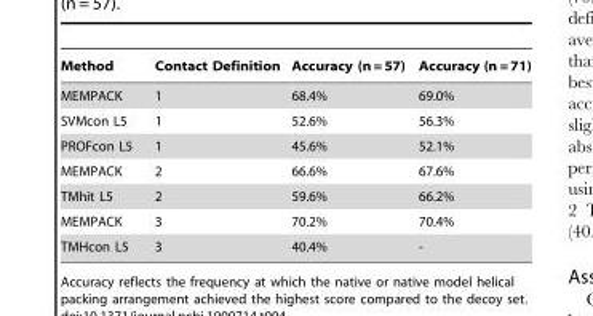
<table><thead><tr><td>Method</td><td>Contact Definition</td><td>Accuracy (n = 57)</td><td>Accuracy (n = 71)</td></tr></thead><tbody><tr><td>MEMPACK</td><td>1</td><td>68.4%</td><td>69.0%</td></tr><tr><td>SVMcon L5</td><td>1</td><td>52.6%</td><td>56.3%</td></tr><tr><td>PROFcon L5</td><td>1</td><td>45.6%</td><td>52.1%</td></tr><tr><td>MEMPACK</td><td>2</td><td>66.6%</td><td>67.6%</td></tr><tr><td>TMhit L5</td><td>2</td><td>59.6%</td><td>66.2%</td></tr><tr><td>MEMPACK</td><td>3</td><td>70.2%</td><td>70.4%</td></tr><tr><td>TMHcon L5</td><td>3</td><td>40.4%</td><td>-</td></tr></tbody></table>